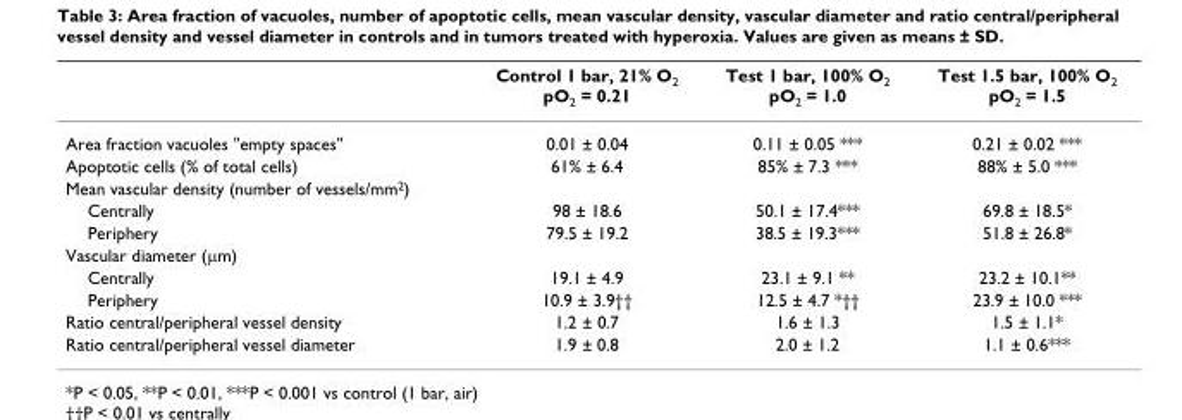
<table><thead><tr><td></td><td>Control 1 bar, 21% O2 pO2 = 0.21</td><td>Test 1 bar, 100% O2 pO2 = 1.0</td><td>Test 1.5 bar, 100% O2 pO2 = 1.5</td></tr></thead><tbody><tr><td>Area fraction vacuoles &quot;empty spaces&quot;</td><td>0.01 ± 0.04</td><td>0.11 ± 0.05 ***</td><td>0.21 ± 0.02 ***</td></tr><tr><td>Apoptotic cells (% of total cells)</td><td>61% ± 6.4</td><td>85% ± 7.3 ***</td><td>88% ± 5.0 ***</td></tr><tr><td colspan="4">Mean vascular density (number of vessels/mm2)</td></tr><tr><td>Centrally</td><td>98 ± 18.6</td><td>50.1 ± 17.4***</td><td>69.8 ± 18.5*</td></tr><tr><td>Periphery</td><td>79.5 ± 19.2</td><td>38.5 ± 19.3***</td><td>51.8 ± 26.8*</td></tr><tr><td colspan="4">Vascular diameter (µm)</td></tr><tr><td>Centrally</td><td>19.1 ± 4.9</td><td>23.1 ± 9.1 **</td><td>23.2 ± 10.1**</td></tr><tr><td>Periphery</td><td>10.9 ± 3.9††</td><td>12.5 ± 4.7 *††</td><td>23.9 ± 10.0 ***</td></tr><tr><td>Ratio central/peripheral vessel density</td><td>1.2 ± 0.7</td><td>1.6 ± 1.3</td><td>1.5 ± 1.1*</td></tr><tr><td>Ratio central/peripheral vessel diameter</td><td>1.9 ± 0.8</td><td>2.0 ± 1.2</td><td>1.1 ± 0.6***</td></tr></tbody></table>